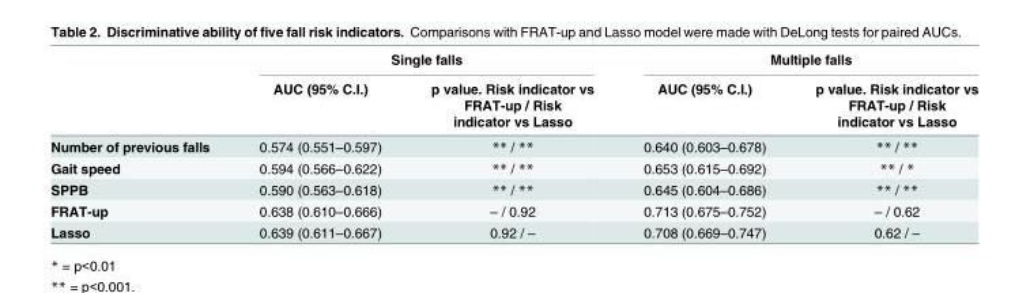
<table><thead><tr><td rowspan="2"></td><td colspan="2">Single falls</td><td colspan="2">Multiple falls</td></tr><tr><td>AUC (95% C.I.)</td><td>p value. Risk indicator vs FRAT-up / Risk indicator vs Lasso</td><td>AUC (95% C.I.)</td><td>p value. Risk indicator vs FRAT-up / Risk indicator vs Lasso</td></tr></thead><tbody><tr><td>Number of previous falls</td><td>0.574 (0.551–0.597)</td><td>** / **</td><td>0.640 (0.603–0.678)</td><td>** / **</td></tr><tr><td>Gait speed</td><td>0.594 (0.566–0.622)</td><td>** / **</td><td>0.653 (0.615–0.692)</td><td>** / *</td></tr><tr><td>SPPB</td><td>0.590 (0.563–0.618)</td><td>** / **</td><td>0.645 (0.604–0.686)</td><td>** / **</td></tr><tr><td>FRAT-up</td><td>0.638 (0.610–0.666)</td><td>– / 0.92</td><td>0.713 (0.675–0.752)</td><td>– / 0.62</td></tr><tr><td>Lasso</td><td>0.639 (0.611–0.667)</td><td>0.92 / –</td><td>0.708 (0.669–0.747)</td><td>0.62 / –</td></tr></tbody></table>